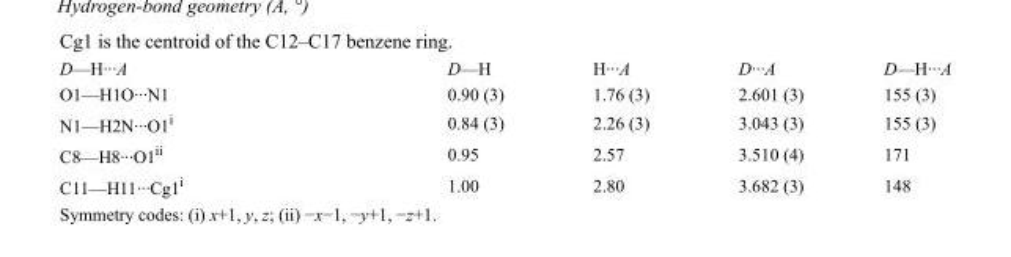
<table><tbody><tr><td>D—H···A</td><td>D—H</td><td>H···A</td><td>D···A</td><td>D—H···A</td></tr><tr><td>O1—H1O···N1</td><td>0.90 (3)</td><td>1.76 (3)</td><td>2.601 (3)</td><td>155 (3)</td></tr><tr><td>N1—H2N···O1<sup>i</sup></td><td>0.84 (3)</td><td>2.26 (3)</td><td>3.043 (3)</td><td>155 (3)</td></tr><tr><td>C8—H8···O1<sup>ii</sup></td><td>0.95</td><td>2.57</td><td>3.510 (4)</td><td>171</td></tr><tr><td>C11—H11···Cg1<sup>i</sup></td><td>1.00</td><td>2.80</td><td>3.682 (3)</td><td>148</td></tr></tbody></table>